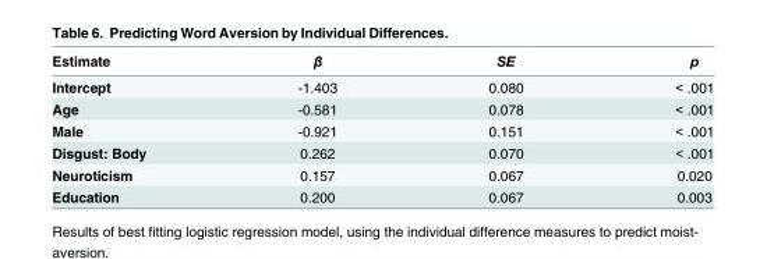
<table><thead><tr><td>Estimate</td><td>β</td><td>SE</td><td>p</td></tr></thead><tbody><tr><td>Intercept</td><td>-1.403</td><td>0.080</td><td>&lt; .001</td></tr><tr><td>Age</td><td>-0.581</td><td>0.078</td><td>&lt; .001</td></tr><tr><td>Male</td><td>-0.921</td><td>0.151</td><td>&lt; .001</td></tr><tr><td>Disgust: Body</td><td>0.262</td><td>0.070</td><td>&lt; .001</td></tr><tr><td>Neuroticism</td><td>0.157</td><td>0.067</td><td>0.020</td></tr><tr><td>Education</td><td>0.200</td><td>0.067</td><td>0.003</td></tr></tbody></table>